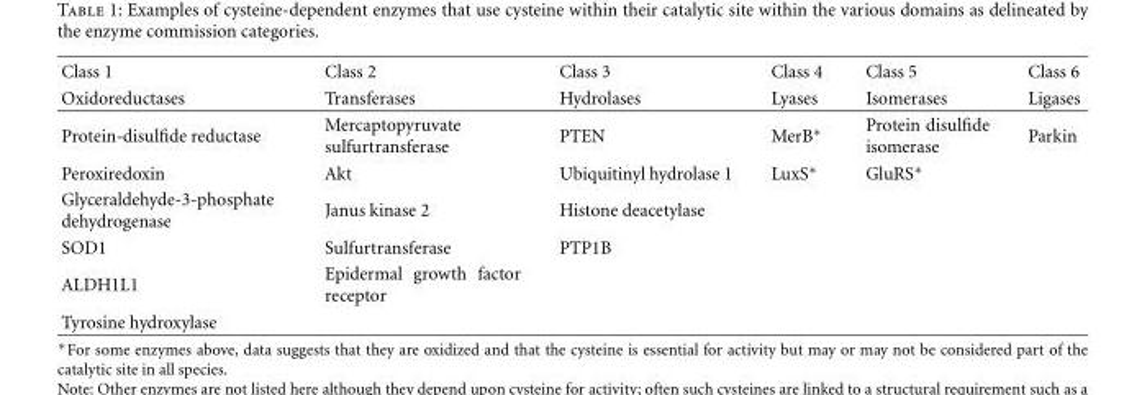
<table><thead><tr><td rowspan="2">Class 1 Oxidoreductases</td><td rowspan="2">Class 2 Transferases</td><td rowspan="2">Class 3 Hydrolases</td><td rowspan="2">Class 4 Lyases</td><td rowspan="2">Class 5 Isomerases</td><td rowspan="2">Class 6 Ligases</td></tr><tr></tr></thead><tbody><tr><td>Protein-disulfide reductase</td><td>Mercaptopyruvate sulfurtransferase</td><td>PTEN</td><td>MerB∗</td><td>Protein disulfide isomerase</td><td>Parkin</td></tr><tr><td>Peroxiredoxin</td><td>Akt</td><td>Ubiquitinyl hydrolase 1</td><td>LuxS∗</td><td>GluRS∗</td><td></td></tr><tr><td>Glyceraldehyde-3-phosphate dehydrogenase</td><td>Janus kinase 2</td><td>Histone deacetylase</td><td></td><td></td><td></td></tr><tr><td>SOD1</td><td>Sulfurtransferase</td><td>PTP1B</td><td></td><td></td><td></td></tr><tr><td>ALDH1L1</td><td>Epidermal growth factor receptor</td><td></td><td></td><td></td><td></td></tr><tr><td>Tyrosine hydroxylase</td><td></td><td></td><td></td><td></td><td></td></tr></tbody></table>